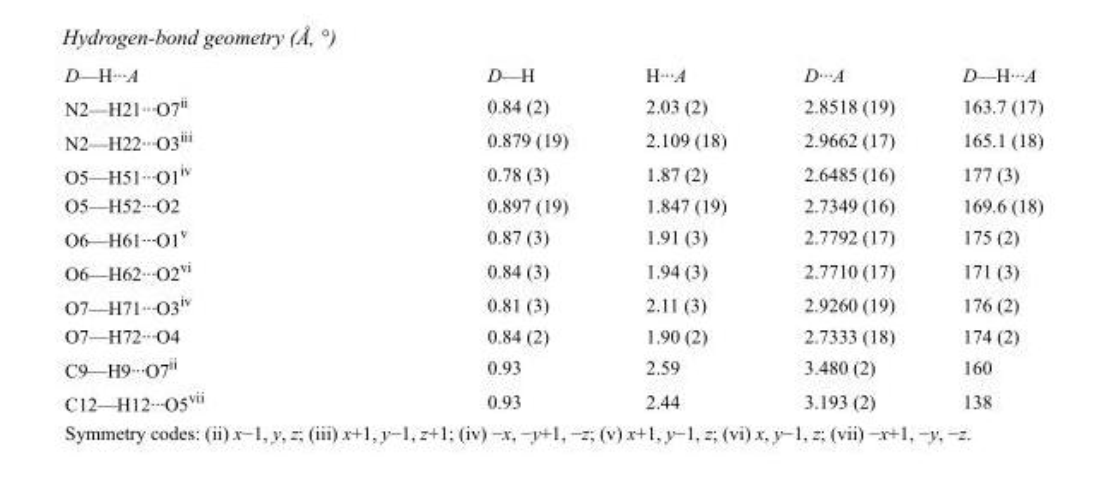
<table><tbody><tr><td>D—H···A</td><td>D—H</td><td>H···A</td><td>D···A</td><td>D—H···A</td></tr><tr><td>N2—H21···O7<sup>ii</sup></td><td>0.84 (2)</td><td>2.03 (2)</td><td>2.8518 (19)</td><td>163.7 (17)</td></tr><tr><td>N2—H22···O3<sup>iii</sup></td><td>0.879 (19)</td><td>2.109 (18)</td><td>2.9662 (17)</td><td>165.1 (18)</td></tr><tr><td>O5—H51···O1<sup>iv</sup></td><td>0.78 (3)</td><td>1.87 (2)</td><td>2.6485 (16)</td><td>177 (3)</td></tr><tr><td>O5—H52···O2</td><td>0.897 (19)</td><td>1.847 (19)</td><td>2.7349 (16)</td><td>169.6 (18)</td></tr><tr><td>O6—H61···O1<sup>v</sup></td><td>0.87 (3)</td><td>1.91 (3)</td><td>2.7792 (17)</td><td>175 (2)</td></tr><tr><td>O6—H62···O2<sup>vi</sup></td><td>0.84 (3)</td><td>1.94 (3)</td><td>2.7710 (17)</td><td>171 (3)</td></tr><tr><td>O7—H71···O3<sup>iv</sup></td><td>0.81 (3)</td><td>2.11 (3)</td><td>2.9260 (19)</td><td>176 (2)</td></tr><tr><td>O7—H72···O4</td><td>0.84 (2)</td><td>1.90 (2)</td><td>2.7333 (18)</td><td>174 (2)</td></tr><tr><td>C9—H9···O7<sup>ii</sup></td><td>0.93</td><td>2.59</td><td>3.480 (2)</td><td>160</td></tr><tr><td>C12—H12···O5<sup>vii</sup></td><td>0.93</td><td>2.44</td><td>3.193 (2)</td><td>138</td></tr></tbody></table>